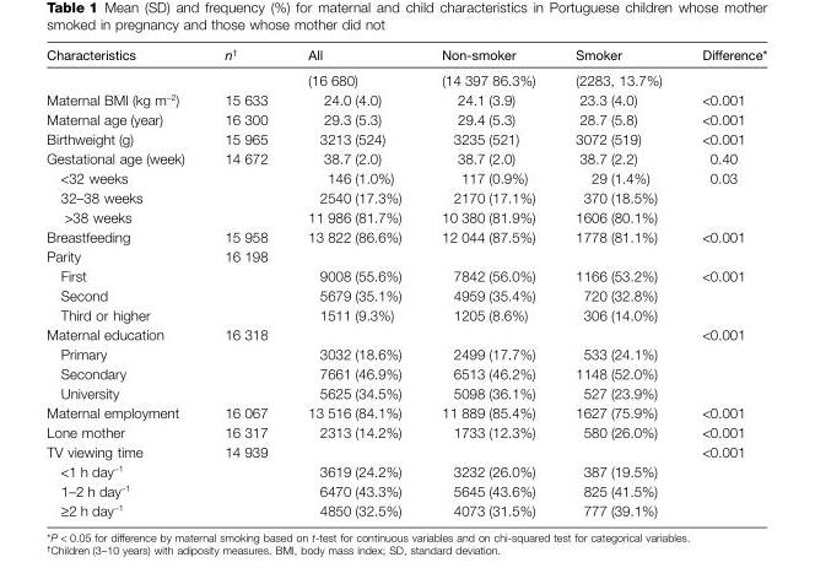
<table><thead><tr><td>Characteristics</td><td>n†</td><td>All</td><td>Non-smoker</td><td>Smoker</td><td>Difference*</td></tr></thead><tbody><tr><td></td><td></td><td>(16 680)</td><td>(14 397 86.3%)</td><td>(2283, 13.7%)</td><td></td></tr><tr><td>Maternal BMI (kg m<sup>−2</sup>)</td><td>15 633</td><td>24.0 (4.0)</td><td>24.1 (3.9)</td><td>23.3 (4.0)</td><td>&lt;0.001</td></tr><tr><td>Maternal age (year)</td><td>16 300</td><td>29.3 (5.3)</td><td>29.4 (5.3)</td><td>28.7 (5.8)</td><td>&lt;0.001</td></tr><tr><td>Birthweight (g)</td><td>15 965</td><td>3213 (524)</td><td>3235 (521)</td><td>3072 (519)</td><td>&lt;0.001</td></tr><tr><td>Gestational age (week)</td><td>14 672</td><td>38.7 (2.0)</td><td>38.7 (2.0)</td><td>38.7 (2.2)</td><td>0.40</td></tr><tr><td>&lt;32 weeks</td><td></td><td>146 (1.0%)</td><td>117 (0.9%)</td><td>29 (1.4%)</td><td>0.03</td></tr><tr><td>32–38 weeks</td><td></td><td>2540 (17.3%)</td><td>2170 (17.1%)</td><td>370 (18.5%)</td><td></td></tr><tr><td>&gt;38 weeks</td><td></td><td>11 986 (81.7%)</td><td>10 380 (81.9%)</td><td>1606 (80.1%)</td><td></td></tr><tr><td>Breastfeeding</td><td>15 958</td><td>13 822 (86.6%)</td><td>12 044 (87.5%)</td><td>1778 (81.1%)</td><td>&lt;0.001</td></tr><tr><td>Parity</td><td>16 198</td><td></td><td></td><td></td><td></td></tr><tr><td>First</td><td></td><td>9008 (55.6%)</td><td>7842 (56.0%)</td><td>1166 (53.2%)</td><td>&lt;0.001</td></tr><tr><td>Second</td><td></td><td>5679 (35.1%)</td><td>4959 (35.4%)</td><td>720 (32.8%)</td><td></td></tr><tr><td>Third or higher</td><td></td><td>1511 (9.3%)</td><td>1205 (8.6%)</td><td>306 (14.0%)</td><td></td></tr><tr><td>Maternal education</td><td>16 318</td><td></td><td></td><td></td><td>&lt;0.001</td></tr><tr><td>Primary</td><td></td><td>3032 (18.6%)</td><td>2499 (17.7%)</td><td>533 (24.1%)</td><td></td></tr><tr><td>Secondary</td><td></td><td>7661 (46.9%)</td><td>6513 (46.2%)</td><td>1148 (52.0%)</td><td></td></tr><tr><td>University</td><td></td><td>5625 (34.5%)</td><td>5098 (36.1%)</td><td>527 (23.9%)</td><td></td></tr><tr><td>Maternal employment</td><td>16 067</td><td>13 516 (84.1%)</td><td>11 889 (85.4%)</td><td>1627 (75.9%)</td><td>&lt;0.001</td></tr><tr><td>Lone mother</td><td>16 317</td><td>2313 (14.2%)</td><td>1733 (12.3%)</td><td>580 (26.0%)</td><td>&lt;0.001</td></tr><tr><td>TV viewing time</td><td>14 939</td><td></td><td></td><td></td><td>&lt;0.001</td></tr><tr><td>&lt;1 h day<sup>−1</sup></td><td></td><td>3619 (24.2%)</td><td>3232 (26.0%)</td><td>387 (19.5%)</td><td></td></tr><tr><td>1–2 h day<sup>−1</sup></td><td></td><td>6470 (43.3%)</td><td>5645 (43.6%)</td><td>825 (41.5%)</td><td></td></tr><tr><td>≥2 h day<sup>−1</sup></td><td></td><td>4850 (32.5%)</td><td>4073 (31.5%)</td><td>777 (39.1%)</td><td></td></tr></tbody></table>